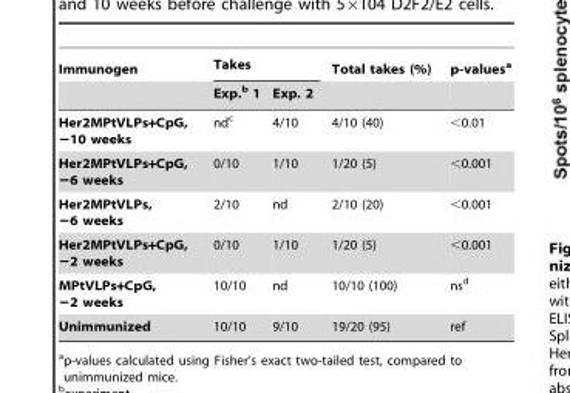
<table><thead><tr><td rowspan="2">Immunogen</td><td colspan="2">Takes</td><td rowspan="2">Total takes (%)</td><td rowspan="2">p-values<sup>a</sup></td></tr><tr><td>Exp.<sup>b</sup> 1</td><td>Exp. 2</td></tr></thead><tbody><tr><td>Her2MPtVLPs+CpG, −10 weeks</td><td>nd<sup>c</sup></td><td>4/10</td><td>4/10 (40)</td><td>&lt;0.01</td></tr><tr><td>Her2MPtVLPs+CpG, −6 weeks</td><td>0/10</td><td>1/10</td><td>1/20 (5)</td><td>&lt;0.001</td></tr><tr><td>Her2MPtVLPs, −6 weeks</td><td>2/10</td><td>nd</td><td>2/10 (20)</td><td>&lt;0.001</td></tr><tr><td>Her2MPtVLPs+CpG, −2 weeks</td><td>0/10</td><td>1/10</td><td>1/20 (5)</td><td>&lt;0.001</td></tr><tr><td>MPtVLPs+CpG, −2 weeks</td><td>10/10</td><td>nd</td><td>10/10 (100)</td><td>ns<sup>d</sup></td></tr><tr><td>Unimmunized</td><td>10/10</td><td>9/10</td><td>19/20 (95)</td><td>ref</td></tr></tbody></table>